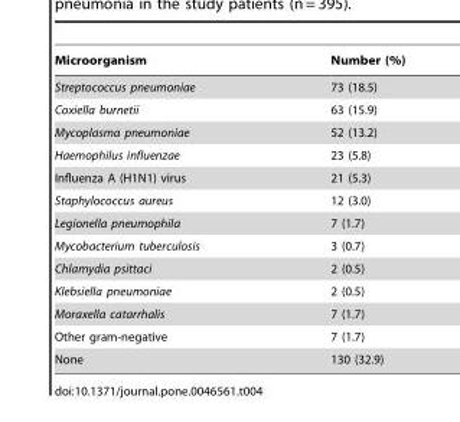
<table><thead><tr><td>Microorganism</td><td>Number (%)</td></tr></thead><tbody><tr><td>Streptococcus pneumoniae</td><td>73 (18.5)</td></tr><tr><td>Coxiella burnetii</td><td>63 (15.9)</td></tr><tr><td>Mycoplasma pneumoniae</td><td>52 (13.2)</td></tr><tr><td>Haemophilus influenzae</td><td>23 (5.8)</td></tr><tr><td>Influenza A (H1N1) virus</td><td>21 (5.3)</td></tr><tr><td>Staphylococcus aureus</td><td>12 (3.0)</td></tr><tr><td>Legionella pneumophila</td><td>7 (1.7)</td></tr><tr><td>Mycobacterium tuberculosis</td><td>3 (0.7)</td></tr><tr><td>Chlamydia psittaci</td><td>2 (0.5)</td></tr><tr><td>Klebsiella pneumoniae</td><td>2 (0.5)</td></tr><tr><td>Moraxella catarrhalis</td><td>7 (1.7)</td></tr><tr><td>Other gram-negative</td><td>7 (1.7)</td></tr><tr><td>None</td><td>130 (32.9)</td></tr></tbody></table>